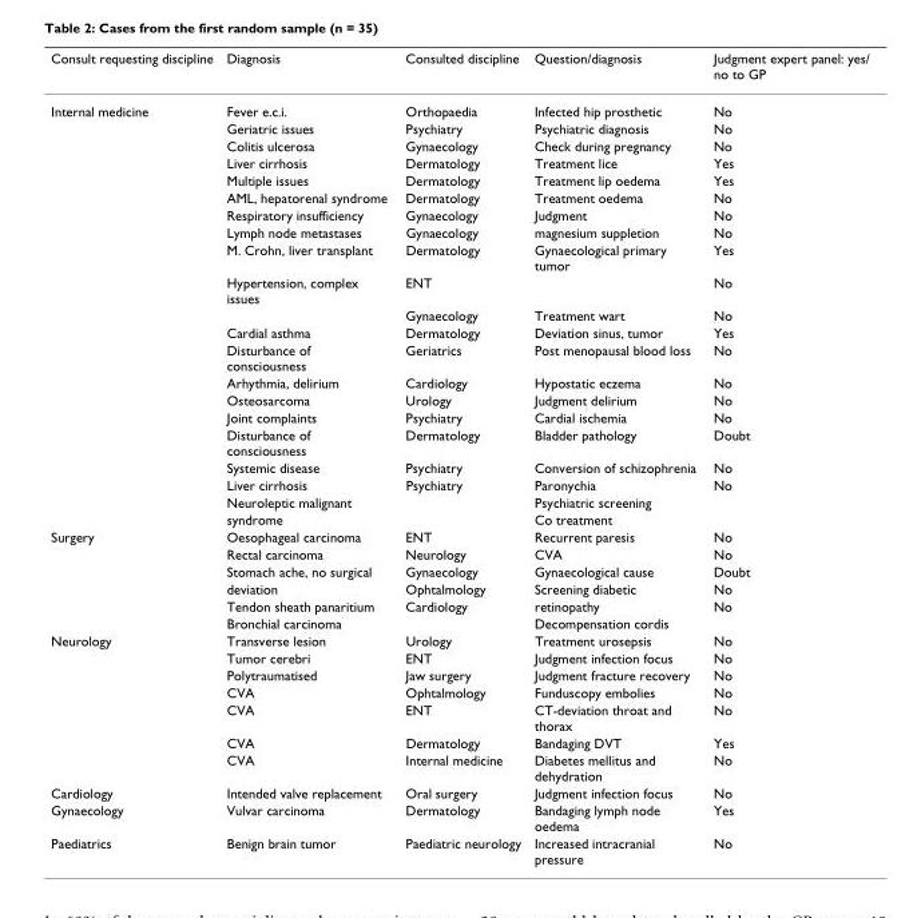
<table><thead><tr><td>Consult requesting discipline</td><td>Diagnosis</td><td>Consulted discipline</td><td>Question/diagnosis</td><td>Judgment expert panel: yes/ no to GP</td></tr></thead><tbody><tr><td rowspan="21">Internal medicine</td><td>Fever e.c.i.</td><td>Orthopaedia</td><td>Infected hip prosthetic</td><td>No</td></tr><tr><td>Geriatric issues</td><td>Psychiatry</td><td>Psychiatric diagnosis</td><td>No</td></tr><tr><td>Colitis ulcerosa</td><td>Gynaecology</td><td>Check during pregnancy</td><td>No</td></tr><tr><td>Liver cirrhosis</td><td>Dermatology</td><td>Treatment lice</td><td>Yes</td></tr><tr><td>Multiple issues</td><td>Dermatology</td><td>Treatment lip oedema</td><td>Yes</td></tr><tr><td>AML, hepatorenal syndrome</td><td>Dermatology</td><td>Treatment oedema</td><td>No</td></tr><tr><td>Respiratory insufficiency</td><td>Gynaecology</td><td>Judgment</td><td>No</td></tr><tr><td>Lymph node metastases</td><td>Gynaecology</td><td>magnesium suppletion</td><td>No</td></tr><tr><td>M. Crohn, liver transplant</td><td>Dermatology</td><td>Gynaecological primary tumor</td><td>Yes</td></tr><tr><td>Hypertension, complex issues</td><td>ENT</td><td></td><td>No</td></tr><tr><td></td><td>Gynaecology</td><td>Treatment wart</td><td>No</td></tr><tr><td>Cardial asthma</td><td>Dermatology</td><td>Deviation sinus, tumor</td><td>Yes</td></tr><tr><td>Disturbance of consciousness</td><td>Geriatrics</td><td>Post menopausal blood loss</td><td>No</td></tr><tr><td>Arhythmia, delirium</td><td>Cardiology</td><td>Hypostatic eczema</td><td>No</td></tr><tr><td>Osteosarcoma</td><td>Urology</td><td>Judgment delirium</td><td>No</td></tr><tr><td>Joint complaints</td><td>Psychiatry</td><td>Cardial ischemia</td><td>No</td></tr><tr><td>Disturbance of consciousness</td><td>Dermatology</td><td>Bladder pathology</td><td>Doubt</td></tr><tr><td>Systemic disease</td><td>Psychiatry</td><td>Conversion of schizophrenia</td><td>No</td></tr><tr><td>Liver cirrhosis</td><td>Psychiatry</td><td>Paronychia</td><td>No</td></tr><tr><td>Neuroleptic malignant</td><td></td><td>Psychiatric screening</td><td></td></tr><tr><td>syndrome</td><td></td><td>Co treatment</td><td></td></tr><tr><td rowspan="6">Surgery</td><td>Oesophageal carcinoma</td><td>ENT</td><td>Recurrent paresis</td><td>No</td></tr><tr><td>Rectal carcinoma</td><td>Neurology</td><td>CVA</td><td>No</td></tr><tr><td>Stomach ache, no surgical</td><td>Gynaecology</td><td>Gynaecological cause</td><td>Doubt</td></tr><tr><td>deviation</td><td>Ophtalmology</td><td>Screening diabetic</td><td>No</td></tr><tr><td>Tendon sheath panaritium</td><td>Cardiology</td><td>retinopathy</td><td>No</td></tr><tr><td>Bronchial carcinoma</td><td></td><td>Decompensation cordis</td><td></td></tr><tr><td rowspan="7">Neurology</td><td>Transverse lesion</td><td>Urology</td><td>Treatment urosepsis</td><td>No</td></tr><tr><td>Tumor cerebri</td><td>ENT</td><td>Judgment infection focus</td><td>No</td></tr><tr><td>Polytraumatised</td><td>Jaw surgery</td><td>Judgment fracture recovery</td><td>No</td></tr><tr><td>CVA</td><td>Ophtalmology</td><td>Funduscopy embolies</td><td>No</td></tr><tr><td>CVA</td><td>ENT</td><td>CT-deviation throat and thorax</td><td>No</td></tr><tr><td>CVA</td><td>Dermatology</td><td>Bandaging DVT</td><td>Yes</td></tr><tr><td>CVA</td><td>Internal medicine</td><td>Diabetes mellitus and dehydration</td><td>No</td></tr><tr><td>Cardiology</td><td>Intended valve replacement</td><td>Oral surgery</td><td>Judgment infection focus</td><td>No</td></tr><tr><td>Gynaecology</td><td>Vulvar carcinoma</td><td>Dermatology</td><td>Bandaging lymph node oedema</td><td>Yes</td></tr><tr><td>Paediatrics</td><td>Benign brain tumor</td><td>Paediatric neurology</td><td>Increased intracranial pressure</td><td>No</td></tr></tbody></table>